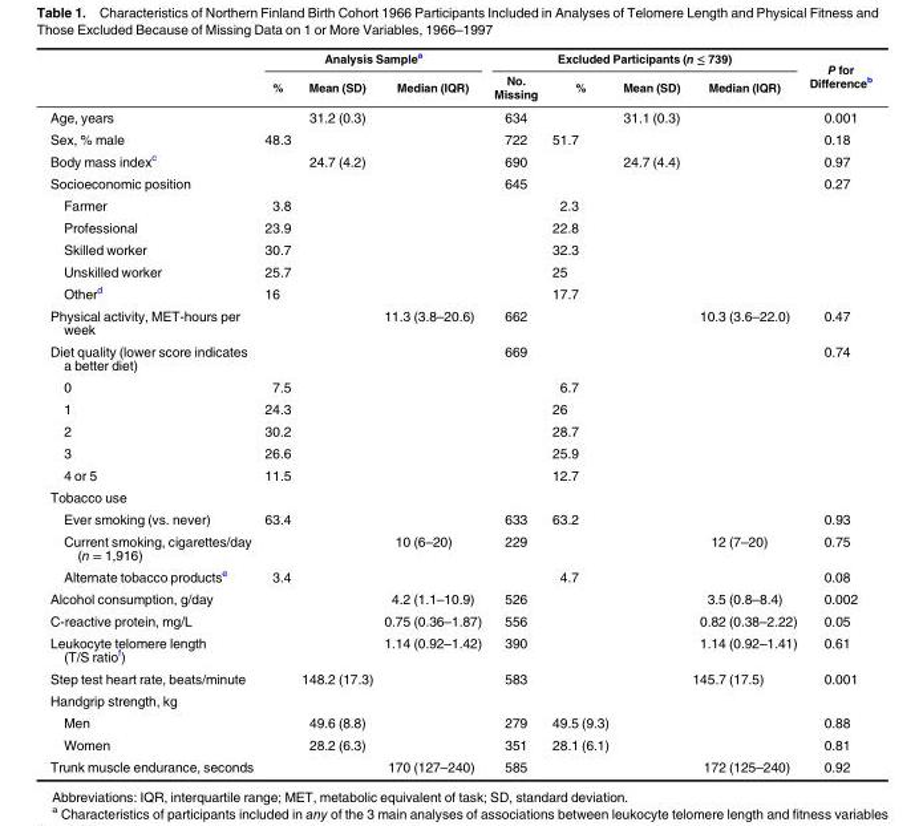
<table><thead><tr><td rowspan="2"></td><td colspan="3">Analysis Sample<sup>a</sup></td><td colspan="4">Excluded Participants (n ≤ 739)</td><td rowspan="2">P for Difference<sup>b</sup></td></tr><tr><td>%</td><td>Mean (SD)</td><td>Median (IQR)</td><td>No. Missing</td><td>%</td><td>Mean (SD)</td><td>Median (IQR)</td></tr></thead><tbody><tr><td>Age, years</td><td></td><td>31.2 (0.3)</td><td></td><td>634</td><td></td><td>31.1 (0.3)</td><td></td><td>0.001</td></tr><tr><td>Sex, % male</td><td>48.3</td><td></td><td></td><td>722</td><td>51.7</td><td></td><td></td><td>0.18</td></tr><tr><td>Body mass index<sup>c</sup></td><td></td><td>24.7 (4.2)</td><td></td><td>690</td><td></td><td>24.7 (4.4)</td><td></td><td>0.97</td></tr><tr><td>Socioeconomic position</td><td></td><td></td><td></td><td>645</td><td></td><td></td><td></td><td>0.27</td></tr><tr><td>Farmer</td><td>3.8</td><td></td><td></td><td></td><td>2.3</td><td></td><td></td><td></td></tr><tr><td>Professional</td><td>23.9</td><td></td><td></td><td></td><td>22.8</td><td></td><td></td><td></td></tr><tr><td>Skilled worker</td><td>30.7</td><td></td><td></td><td></td><td>32.3</td><td></td><td></td><td></td></tr><tr><td>Unskilled worker</td><td>25.7</td><td></td><td></td><td></td><td>25</td><td></td><td></td><td></td></tr><tr><td>Other<sup>d</sup></td><td>16</td><td></td><td></td><td></td><td>17.7</td><td></td><td></td><td></td></tr><tr><td>Physical activity, MET-hours per week</td><td></td><td></td><td>11.3 (3.8–20.6)</td><td>662</td><td></td><td></td><td>10.3 (3.6–22.0)</td><td>0.47</td></tr><tr><td>Diet quality (lower score indicates a better diet)</td><td></td><td></td><td></td><td>669</td><td></td><td></td><td></td><td>0.74</td></tr><tr><td>0</td><td>7.5</td><td></td><td></td><td></td><td>6.7</td><td></td><td></td><td></td></tr><tr><td>1</td><td>24.3</td><td></td><td></td><td></td><td>26</td><td></td><td></td><td></td></tr><tr><td>2</td><td>30.2</td><td></td><td></td><td></td><td>28.7</td><td></td><td></td><td></td></tr><tr><td>3</td><td>26.6</td><td></td><td></td><td></td><td>25.9</td><td></td><td></td><td></td></tr><tr><td>4 or 5</td><td>11.5</td><td></td><td></td><td></td><td>12.7</td><td></td><td></td><td></td></tr><tr><td colspan="9">Tobacco use</td></tr><tr><td>Ever smoking (vs. never)</td><td>63.4</td><td></td><td></td><td>633</td><td>63.2</td><td></td><td></td><td>0.93</td></tr><tr><td>Current smoking, cigarettes/day (n = 1,916)</td><td></td><td></td><td>10 (6–20)</td><td>229</td><td></td><td></td><td>12 (7–20)</td><td>0.75</td></tr><tr><td>Alternate tobacco products<sup>e</sup></td><td>3.4</td><td></td><td></td><td></td><td>4.7</td><td></td><td></td><td>0.08</td></tr><tr><td>Alcohol consumption, g/day</td><td></td><td></td><td>4.2 (1.1–10.9)</td><td>526</td><td></td><td></td><td>3.5 (0.8–8.4)</td><td>0.002</td></tr><tr><td>C-reactive protein, mg/L</td><td></td><td></td><td>0.75 (0.36–1.87)</td><td>556</td><td></td><td></td><td>0.82 (0.38–2.22)</td><td>0.05</td></tr><tr><td>Leukocyte telomere length (T/S ratio<sup>f</sup>)</td><td></td><td></td><td>1.14 (0.92–1.42)</td><td>390</td><td></td><td></td><td>1.14 (0.92–1.41)</td><td>0.61</td></tr><tr><td>Step test heart rate, beats/minute</td><td></td><td>148.2 (17.3)</td><td></td><td>583</td><td></td><td></td><td>145.7 (17.5)</td><td>0.001</td></tr><tr><td colspan="9">Handgrip strength, kg</td></tr><tr><td>Men</td><td></td><td>49.6 (8.8)</td><td></td><td>279</td><td>49.5 (9.3)</td><td></td><td></td><td>0.88</td></tr><tr><td>Women</td><td></td><td>28.2 (6.3)</td><td></td><td>351</td><td>28.1 (6.1)</td><td></td><td></td><td>0.81</td></tr><tr><td>Trunk muscle endurance, seconds</td><td></td><td></td><td>170 (127–240)</td><td>585</td><td></td><td></td><td>172 (125–240)</td><td>0.92</td></tr></tbody></table>